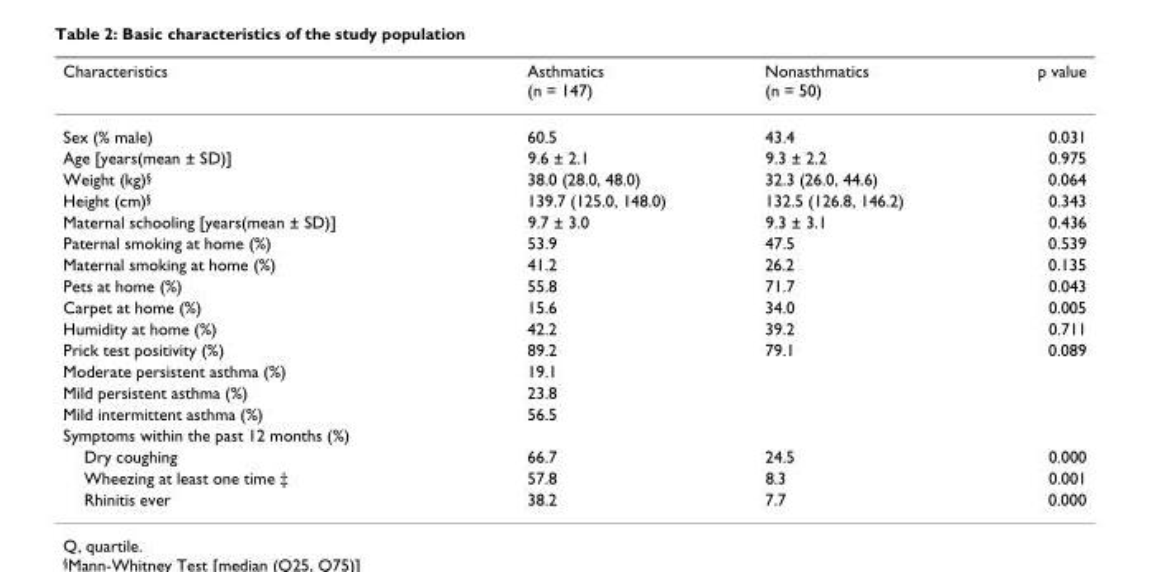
<table><thead><tr><td>Characteristics</td><td>Asthmatics (n = 147)</td><td>Nonasthmatics (n = 50)</td><td>p value</td></tr></thead><tbody><tr><td>Sex (% male)</td><td>60.5</td><td>43.4</td><td>0.031</td></tr><tr><td>Age [years(mean ± SD)]</td><td>9.6 ± 2.1</td><td>9.3 ± 2.2</td><td>0.975</td></tr><tr><td>Weight (kg)<sup>§</sup></td><td>38.0 (28.0, 48.0)</td><td>32.3 (26.0, 44.6)</td><td>0.064</td></tr><tr><td>Height (cm)<sup>§</sup></td><td>139.7 (125.0, 148.0)</td><td>132.5 (126.8, 146.2)</td><td>0.343</td></tr><tr><td>Maternal schooling [years(mean ± SD)]</td><td>9.7 ± 3.0</td><td>9.3 ± 3.1</td><td>0.436</td></tr><tr><td>Paternal smoking at home (%)</td><td>53.9</td><td>47.5</td><td>0.539</td></tr><tr><td>Maternal smoking at home (%)</td><td>41.2</td><td>26.2</td><td>0.135</td></tr><tr><td>Pets at home (%)</td><td>55.8</td><td>71.7</td><td>0.043</td></tr><tr><td>Carpet at home (%)</td><td>15.6</td><td>34.0</td><td>0.005</td></tr><tr><td>Humidity at home (%)</td><td>42.2</td><td>39.2</td><td>0.711</td></tr><tr><td>Prick test positivity (%)</td><td>89.2</td><td>79.1</td><td>0.089</td></tr><tr><td>Moderate persistent asthma (%)</td><td>19.1</td><td></td><td></td></tr><tr><td>Mild persistent asthma (%)</td><td>23.8</td><td></td><td></td></tr><tr><td>Mild intermittent asthma (%)</td><td>56.5</td><td></td><td></td></tr><tr><td colspan="4">Symptoms within the past 12 months (%)</td></tr><tr><td>Dry coughing</td><td>66.7</td><td>24.5</td><td>0.000</td></tr><tr><td>Wheezing at least one time ‡</td><td>57.8</td><td>8.3</td><td>0.001</td></tr><tr><td>Rhinitis ever</td><td>38.2</td><td>7.7</td><td>0.000</td></tr></tbody></table>